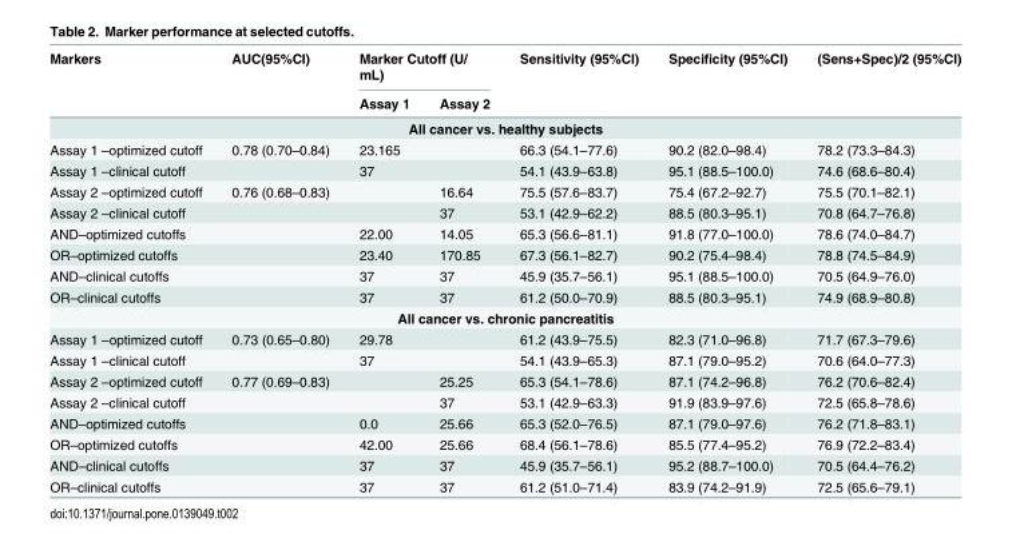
<table><thead><tr><td rowspan="2">Markers</td><td rowspan="2">AUC(95%CI)</td><td colspan="2">Marker Cutoff (U/ mL)</td><td rowspan="2">Sensitivity (95%CI)</td><td rowspan="2">Specificity (95%CI)</td><td rowspan="2">(Sens+Spec)/2 (95%CI)</td></tr><tr><td>Assay 1</td><td>Assay 2</td></tr></thead><tbody><tr><td colspan="7">All cancer vs. healthy subjects</td></tr><tr><td>Assay 1 –optimized cutoff</td><td>0.78 (0.70–0.84)</td><td>23.165</td><td></td><td>66.3 (54.1–77.6)</td><td>90.2 (82.0–98.4)</td><td>78.2 (73.3–84.3)</td></tr><tr><td>Assay 1 –clinical cutoff</td><td></td><td>37</td><td></td><td>54.1 (43.9–63.8)</td><td>95.1 (88.5–100.0)</td><td>74.6 (68.6–80.4)</td></tr><tr><td>Assay 2 –optimized cutoff</td><td>0.76 (0.68–0.83)</td><td></td><td>16.64</td><td>75.5 (57.6–83.7)</td><td>75.4 (67.2–92.7)</td><td>75.5 (70.1–82.1)</td></tr><tr><td>Assay 2 –clinical cutoff</td><td></td><td></td><td>37</td><td>53.1 (42.9–62.2)</td><td>88.5 (80.3–95.1)</td><td>70.8 (64.7–76.8)</td></tr><tr><td>AND–optimized cutoffs</td><td></td><td>22.00</td><td>14.05</td><td>65.3 (56.6–81.1)</td><td>91.8 (77.0–100.0)</td><td>78.6 (74.0–84.7)</td></tr><tr><td>OR–optimized cutoffs</td><td></td><td>23.40</td><td>170.85</td><td>67.3 (56.1–82.7)</td><td>90.2 (75.4–98.4)</td><td>78.8 (74.5–84.9)</td></tr><tr><td>AND–clinical cutoffs</td><td></td><td>37</td><td>37</td><td>45.9 (35.7–56.1)</td><td>95.1 (88.5–100.0)</td><td>70.5 (64.9–76.0)</td></tr><tr><td>OR–clinical cutoffs</td><td></td><td>37</td><td>37</td><td>61.2 (50.0–70.9)</td><td>88.5 (80.3–95.1)</td><td>74.9 (68.9–80.8)</td></tr><tr><td colspan="7">All cancer vs. chronic pancreatitis</td></tr><tr><td>Assay 1 –optimized cutoff</td><td>0.73 (0.65–0.80)</td><td>29.78</td><td></td><td>61.2 (43.9–75.5)</td><td>82.3 (71.0–96.8)</td><td>71.7 (67.3–79.6)</td></tr><tr><td>Assay 1 –clinical cutoff</td><td></td><td>37</td><td></td><td>54.1 (43.9–65.3)</td><td>87.1 (79.0–95.2)</td><td>70.6 (64.0–77.3)</td></tr><tr><td>Assay 2 –optimized cutoff</td><td>0.77 (0.69–0.83)</td><td></td><td>25.25</td><td>65.3 (54.1–78.6)</td><td>87.1 (74.2–96.8)</td><td>76.2 (70.6–82.4)</td></tr><tr><td>Assay 2 –clinical cutoff</td><td></td><td></td><td>37</td><td>53.1 (42.9–63.3)</td><td>91.9 (83.9–97.6)</td><td>72.5 (65.8–78.6)</td></tr><tr><td>AND–optimized cutoffs</td><td></td><td>0.0</td><td>25.66</td><td>65.3 (52.0–76.5)</td><td>87.1 (79.0–97.6)</td><td>76.2 (71.8–83.1)</td></tr><tr><td>OR–optimized cutoffs</td><td></td><td>42.00</td><td>25.66</td><td>68.4 (56.1–78.6)</td><td>85.5 (77.4–95.2)</td><td>76.9 (72.2–83.4)</td></tr><tr><td>AND–clinical cutoffs</td><td></td><td>37</td><td>37</td><td>45.9 (35.7–56.1)</td><td>95.2 (88.7–100.0)</td><td>70.5 (64.4–76.2)</td></tr><tr><td>OR–clinical cutoffs</td><td></td><td>37</td><td>37</td><td>61.2 (51.0–71.4)</td><td>83.9 (74.2–91.9)</td><td>72.5 (65.6–79.1)</td></tr></tbody></table>